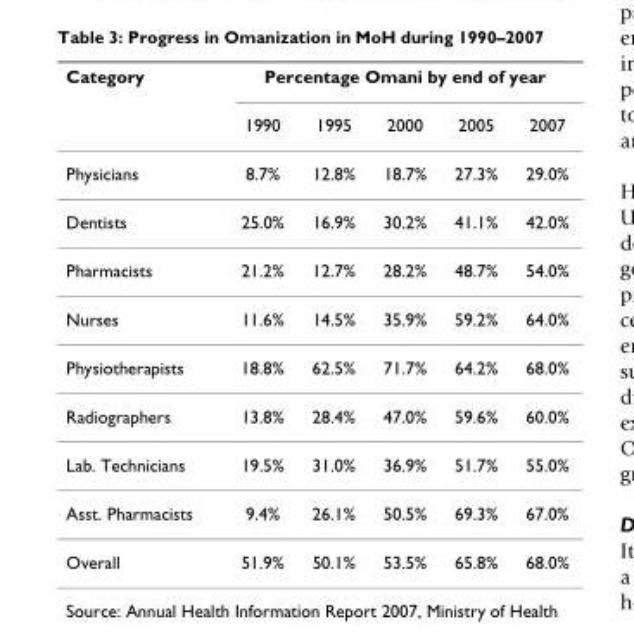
<table><thead><tr><td rowspan="2">Category</td><td colspan="5">Percentage Omani by end of year</td></tr><tr><td>1990</td><td>1995</td><td>2000</td><td>2005</td><td>2007</td></tr></thead><tbody><tr><td>Physicians</td><td>8.7%</td><td>12.8%</td><td>18.7%</td><td>27.3%</td><td>29.0%</td></tr><tr><td>Dentists</td><td>25.0%</td><td>16.9%</td><td>30.2%</td><td>41.1%</td><td>42.0%</td></tr><tr><td>Pharmacists</td><td>21.2%</td><td>12.7%</td><td>28.2%</td><td>48.7%</td><td>54.0%</td></tr><tr><td>Nurses</td><td>11.6%</td><td>14.5%</td><td>35.9%</td><td>59.2%</td><td>64.0%</td></tr><tr><td>Physiotherapists</td><td>18.8%</td><td>62.5%</td><td>71.7%</td><td>64.2%</td><td>68.0%</td></tr><tr><td>Radiographers</td><td>13.8%</td><td>28.4%</td><td>47.0%</td><td>59.6%</td><td>60.0%</td></tr><tr><td>Lab. Technicians</td><td>19.5%</td><td>31.0%</td><td>36.9%</td><td>51.7%</td><td>55.0%</td></tr><tr><td>Asst. Pharmacists</td><td>9.4%</td><td>26.1%</td><td>50.5%</td><td>69.3%</td><td>67.0%</td></tr><tr><td>Overall</td><td>51.9%</td><td>50.1%</td><td>53.5%</td><td>65.8%</td><td>68.0%</td></tr></tbody></table>